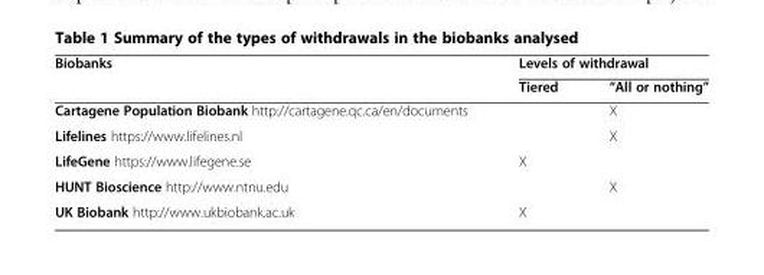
<table><thead><tr><td rowspan="2">Biobanks</td><td colspan="2">Levels of withdrawal</td></tr><tr><td>Tiered</td><td>“All or nothing”</td></tr></thead><tbody><tr><td>Cartagene Population Biobank http://cartagene.qc.ca/en/documents</td><td></td><td>X</td></tr><tr><td>Lifelines https://www.lifelines.nl</td><td></td><td>X</td></tr><tr><td>LifeGene https://www.lifegene.se</td><td>X</td><td></td></tr><tr><td>HUNT Bioscience http://www.ntnu.edu</td><td></td><td>X</td></tr><tr><td>UK Biobank http://www.ukbiobank.ac.uk</td><td>X</td><td></td></tr></tbody></table>